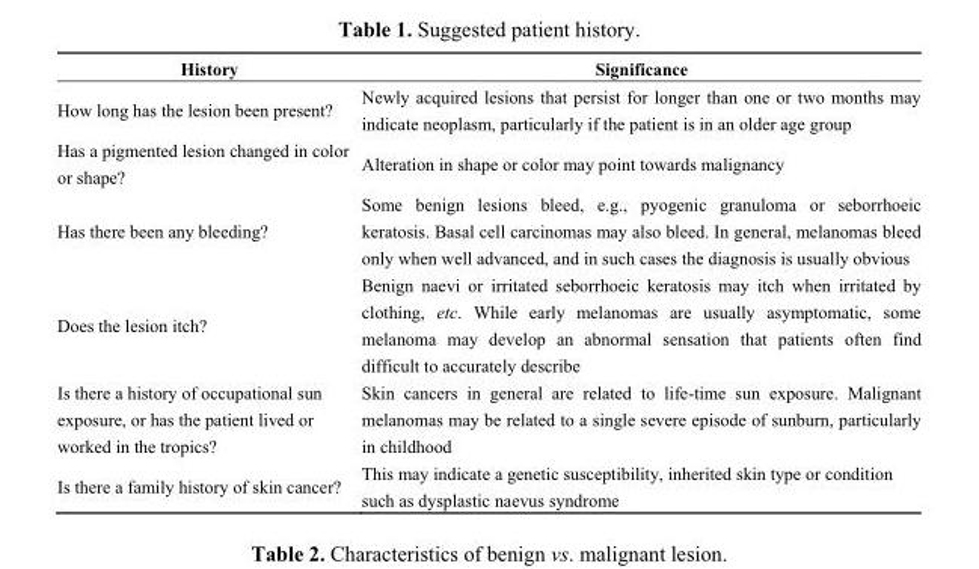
<table><thead><tr><td>History</td><td>Significance</td></tr></thead><tbody><tr><td>How long has the lesion been present?</td><td>Newly acquired lesions that persist for longer than one or two months may indicate neoplasm, particularly if the patient is in an older age group</td></tr><tr><td>Has a pigmented lesion changed in color or shape?</td><td>Alteration in shape or color may point towards malignancy</td></tr><tr><td>Has there been any bleeding?</td><td>Some benign lesions bleed, e.g., pyogenic granuloma or seborrhoeic keratosis. Basal cell carcinomas may also bleed. In general, melanomas bleed only when well advanced, and in such cases the diagnosis is usually obvious</td></tr><tr><td>Does the lesion itch?</td><td>Benign naevi or irritated seborrhoeic keratosis may itch when irritated by clothing, etc. While early melanomas are usually asymptomatic, some melanoma may develop an abnormal sensation that patients often find difficult to accurately describe</td></tr><tr><td>Is there a history of occupational sun exposure, or has the patient lived or worked in the tropics?</td><td>Skin cancers in general are related to life-time sun exposure. Malignant melanomas may be related to a single severe episode of sunburn, particularly in childhood</td></tr><tr><td>Is there a family history of skin cancer?</td><td>This may indicate a genetic susceptibility, inherited skin type or condition such as dysplastic naevus syndrome</td></tr></tbody></table>